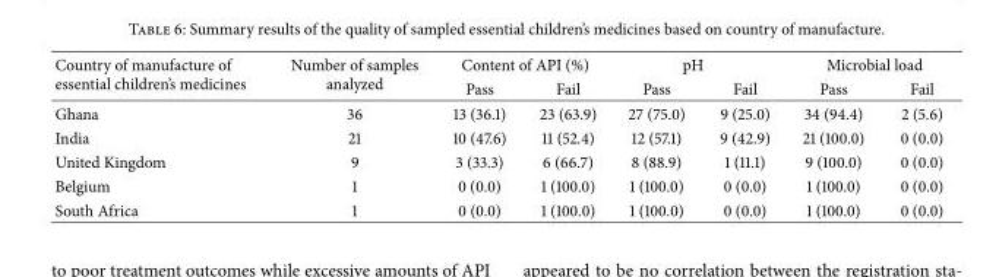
<table><thead><tr><td rowspan="2">Country of manufacture of essential children’s medicines</td><td rowspan="2">Number of samples analyzed</td><td colspan="2">Content of API (%)</td><td colspan="2">pH</td><td colspan="2">Microbial load</td></tr><tr><td>Pass</td><td>Fail</td><td>Pass</td><td>Fail</td><td>Pass</td><td>Fail</td></tr></thead><tbody><tr><td>Ghana</td><td>36</td><td>13 (36.1)</td><td>23 (63.9)</td><td>27 (75.0)</td><td>9 (25.0)</td><td>34 (94.4)</td><td>2 (5.6)</td></tr><tr><td>India</td><td>21</td><td>10 (47.6)</td><td>11 (52.4)</td><td>12 (57.1)</td><td>9 (42.9)</td><td>21 (100.0)</td><td>0 (0.0)</td></tr><tr><td>United Kingdom</td><td>9</td><td>3 (33.3)</td><td>6 (66.7)</td><td>8 (88.9)</td><td>1 (11.1)</td><td>9 (100.0)</td><td>0 (0.0)</td></tr><tr><td>Belgium</td><td>1</td><td>0 (0.0)</td><td>1 (100.0)</td><td>1 (100.0)</td><td>0 (0.0)</td><td>1 (100.0)</td><td>0 (0.0)</td></tr><tr><td>South Africa</td><td>1</td><td>0 (0.0)</td><td>1 (100.0)</td><td>1 (100.0)</td><td>0 (0.0)</td><td>1 (100.0)</td><td>0 (0.0)</td></tr></tbody></table>